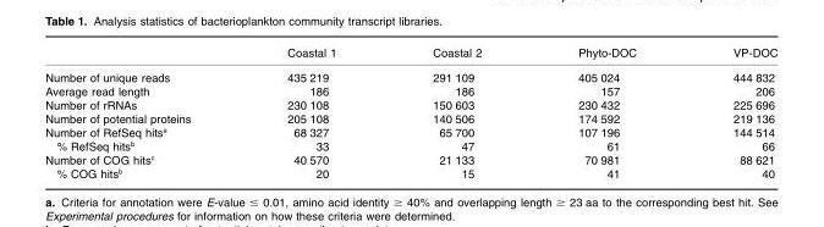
<table><thead><tr><td></td><td>Coastal 1</td><td>Coastal 2</td><td>Phyto-DOC</td><td>VP-DOC</td></tr></thead><tbody><tr><td>Number of unique reads</td><td>435 219</td><td>291 109</td><td>405 024</td><td>444 832</td></tr><tr><td>Average read length</td><td>186</td><td>186</td><td>157</td><td>206</td></tr><tr><td>Number of rRNAs</td><td>230 108</td><td>150 603</td><td>230 432</td><td>225 696</td></tr><tr><td>Number of potential proteins</td><td>205 108</td><td>140 506</td><td>174 592</td><td>219 136</td></tr><tr><td>Number of RefSeq hits<sup>a</sup></td><td>68 327</td><td>65 700</td><td>107 196</td><td>144 514</td></tr><tr><td>% RefSeq hits<sup>b</sup></td><td>33</td><td>47</td><td>61</td><td>66</td></tr><tr><td>Number of COG hits<sup>c</sup></td><td>40 570</td><td>21 133</td><td>70 981</td><td>88 621</td></tr><tr><td>% COG hits<sup>b</sup></td><td>20</td><td>15</td><td>41</td><td>40</td></tr></tbody></table>